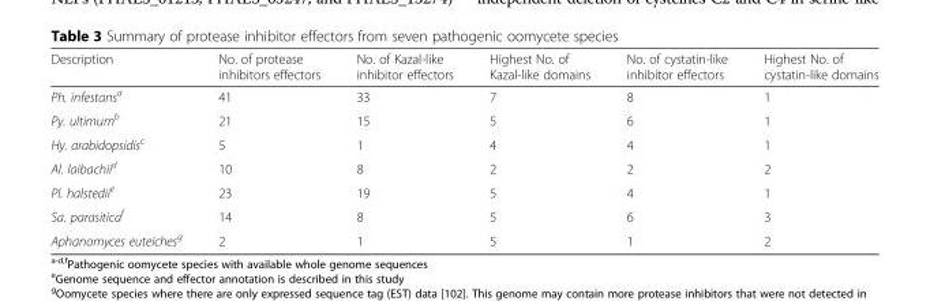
<table><thead><tr><td>Description</td><td>No. of protease inhibitors effectors</td><td>No. of Kazal-like inhibitor effectors</td><td>Highest No. of Kazal-like domains</td><td>No. of cystatin-like inhibitor effectors</td><td>Highest No. of cystatin-like domains</td></tr></thead><tbody><tr><td>Ph. infestans<sup>a</sup></td><td>41</td><td>33</td><td>7</td><td>8</td><td>1</td></tr><tr><td>Py. ultimum<sup>b</sup></td><td>21</td><td>15</td><td>5</td><td>6</td><td>1</td></tr><tr><td>Hy. arabidopsidis<sup>c</sup></td><td>5</td><td>1</td><td>4</td><td>4</td><td>1</td></tr><tr><td>Al. laibachii<sup>d</sup></td><td>10</td><td>8</td><td>2</td><td>2</td><td>2</td></tr><tr><td>Pl. halstedii<sup>e</sup></td><td>23</td><td>19</td><td>5</td><td>4</td><td>1</td></tr><tr><td>Sa. parasitica<sup>f</sup></td><td>14</td><td>8</td><td>5</td><td>6</td><td>3</td></tr><tr><td>Aphanomyces euteiches<sup>g</sup></td><td>2</td><td>1</td><td>5</td><td>1</td><td>2</td></tr></tbody></table>